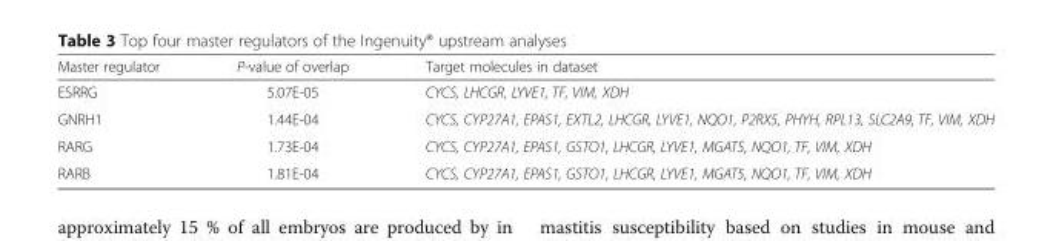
<table><thead><tr><td>Master regulator</td><td>P-value of overlap</td><td>Target molecules in dataset</td></tr></thead><tbody><tr><td>ESRRG</td><td>5.07E-05</td><td>CYCS, LHCGR, LYVE1, TF, VIM, XDH</td></tr><tr><td>GNRH1</td><td>1.44E-04</td><td>CYCS, CYP27A1, EPAS1, EXTL2, LHCGR, LYVE1, NQO1, P2RX5, PHYH, RPL13, SLC2A9, TF, VIM, XDH</td></tr><tr><td>RARG</td><td>1.73E-04</td><td>CYCS, CYP27A1, EPAS1, GSTO1, LHCGR, LYVE1, MGAT5, NQO1, TF, VIM, XDH</td></tr><tr><td>RARB</td><td>1.81E-04</td><td>CYCS, CYP27A1, EPAS1, GSTO1, LHCGR, LYVE1, MGAT5, NQO1, TF, VIM, XDH</td></tr></tbody></table>